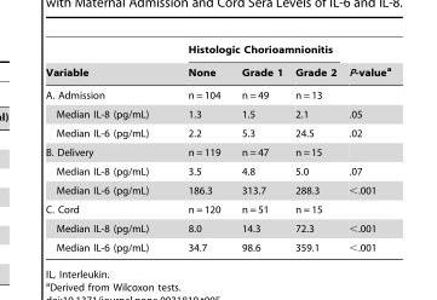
<table><thead><tr><td rowspan="2">Variable</td><td colspan="3">Histologic Chorioamnionitis</td><td rowspan="2">P-value<sup>a</sup></td></tr><tr><td>None</td><td>Grade 1</td><td>Grade 2</td></tr></thead><tbody><tr><td>A. Admission</td><td>n = 104</td><td>n = 49</td><td>n = 13</td><td></td></tr><tr><td>Median IL-8 (pg/mL)</td><td>1.3</td><td>1.5</td><td>2.1</td><td>.05</td></tr><tr><td>Median IL-6 (pg/mL)</td><td>2.2</td><td>5.3</td><td>24.5</td><td>.02</td></tr><tr><td>B. Delivery</td><td>n = 119</td><td>n = 47</td><td>n = 15</td><td></td></tr><tr><td>Median IL-8 (pg/mL)</td><td>3.5</td><td>4.8</td><td>5.0</td><td>.07</td></tr><tr><td>Median IL-6 (pg/mL)</td><td>186.3</td><td>313.7</td><td>288.3</td><td>&lt;.001</td></tr><tr><td>C. Cord</td><td>n = 120</td><td>n = 51</td><td>n = 15</td><td></td></tr><tr><td>Median IL-8 (pg/mL)</td><td>8.0</td><td>14.3</td><td>72.3</td><td>&lt;.001</td></tr><tr><td>Median IL-6 (pg/mL)</td><td>34.7</td><td>98.6</td><td>359.1</td><td>&lt;.001</td></tr></tbody></table>